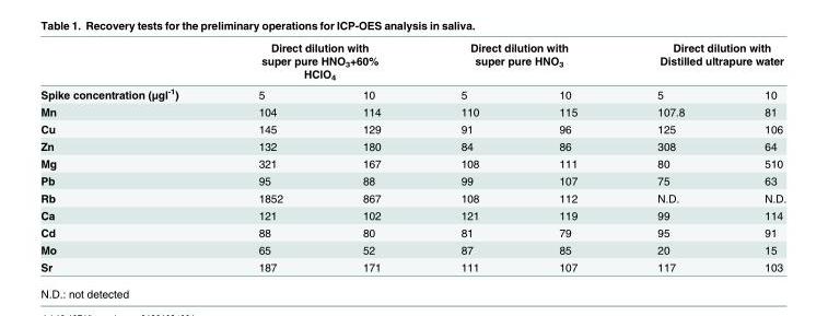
<table><thead><tr><td rowspan="2">Spike concentration (μgl<sup>-1</sup>)</td><td colspan="2">Direct dilution with super pure HNO<sub>3</sub>+60% HClO<sub>4</sub></td><td colspan="2">Direct dilution with super pure HNO<sub>3</sub></td><td colspan="2">Direct dilution with Distilled ultrapure water</td></tr><tr><td>5</td><td>10</td><td>5</td><td>10</td><td>5</td><td>10</td></tr></thead><tbody><tr><td>Mn</td><td>104</td><td>114</td><td>110</td><td>115</td><td>107.8</td><td>81</td></tr><tr><td>Cu</td><td>145</td><td>129</td><td>91</td><td>96</td><td>125</td><td>106</td></tr><tr><td>Zn</td><td>132</td><td>180</td><td>84</td><td>86</td><td>308</td><td>64</td></tr><tr><td>Mg</td><td>321</td><td>167</td><td>108</td><td>111</td><td>80</td><td>510</td></tr><tr><td>Pb</td><td>95</td><td>88</td><td>99</td><td>107</td><td>75</td><td>63</td></tr><tr><td>Rb</td><td>1852</td><td>867</td><td>108</td><td>112</td><td>N.D.</td><td>N.D.</td></tr><tr><td>Ca</td><td>121</td><td>102</td><td>121</td><td>119</td><td>99</td><td>114</td></tr><tr><td>Cd</td><td>88</td><td>80</td><td>81</td><td>79</td><td>95</td><td>91</td></tr><tr><td>Mo</td><td>65</td><td>52</td><td>87</td><td>85</td><td>20</td><td>15</td></tr><tr><td>Sr</td><td>187</td><td>171</td><td>111</td><td>107</td><td>117</td><td>103</td></tr></tbody></table>